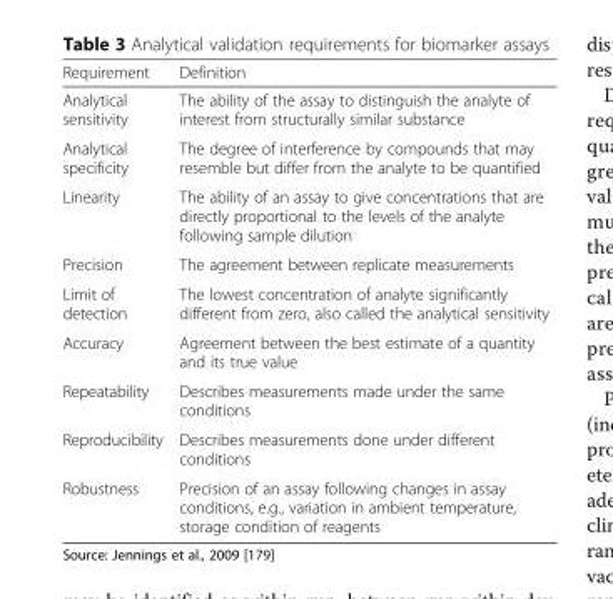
<table><thead><tr><td>Requirement</td><td>Definition</td></tr></thead><tbody><tr><td>Analytical sensitivity</td><td>The ability of the assay to distinguish the analyte of interest from structurally similar substance</td></tr><tr><td>Analytical specificity</td><td>The degree of interference by compounds that may resemble but differ from the analyte to be quantified</td></tr><tr><td>Linearity</td><td>The ability of an assay to give concentrations that are directly proportional to the levels of the analyte following sample dilution</td></tr><tr><td>Precision</td><td>The agreement between replicate measurements</td></tr><tr><td>Limit of detection</td><td>The lowest concentration of analyte significantly different from zero, also called the analytical sensitivity</td></tr><tr><td>Accuracy</td><td>Agreement between the best estimate of a quantity and its true value</td></tr><tr><td>Repeatability</td><td>Describes measurements made under the same conditions</td></tr><tr><td>Reproducibility</td><td>Describes measurements done under different conditions</td></tr><tr><td>Robustness</td><td>Precision of an assay following changes in assay conditions, e.g., variation in ambient temperature, storage condition of reagents</td></tr></tbody></table>